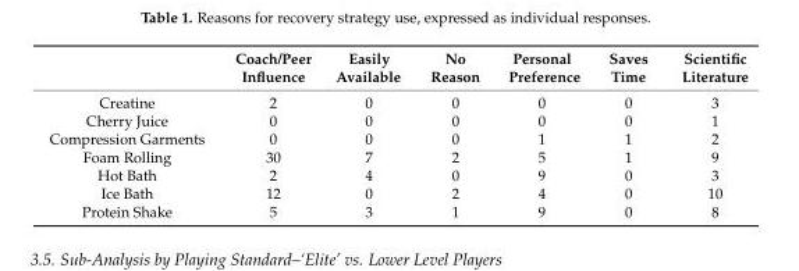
<table><thead><tr><td></td><td>Coach/Peer Influence</td><td>Easily Available</td><td>No Reason</td><td>Personal Preference</td><td>Saves Time</td><td>Scientific Literature</td></tr></thead><tbody><tr><td>Creatine</td><td>2</td><td>0</td><td>0</td><td>0</td><td>0</td><td>3</td></tr><tr><td>Cherry Juice</td><td>0</td><td>0</td><td>0</td><td>0</td><td>0</td><td>1</td></tr><tr><td>Compression Garments</td><td>0</td><td>0</td><td>0</td><td>1</td><td>1</td><td>2</td></tr><tr><td>Foam Rolling</td><td>30</td><td>7</td><td>2</td><td>5</td><td>1</td><td>9</td></tr><tr><td>Hot Bath</td><td>2</td><td>4</td><td>0</td><td>9</td><td>0</td><td>3</td></tr><tr><td>Ice Bath</td><td>12</td><td>0</td><td>2</td><td>4</td><td>0</td><td>10</td></tr><tr><td>Protein Shake</td><td>5</td><td>3</td><td>1</td><td>9</td><td>0</td><td>8</td></tr></tbody></table>